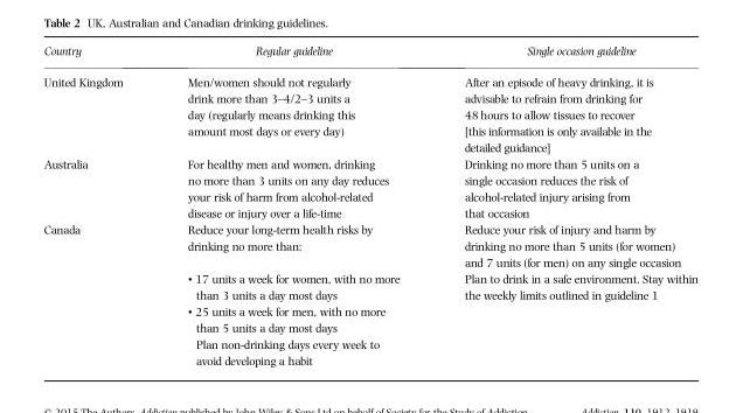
<table><thead><tr><td>Country</td><td>Regular guideline</td><td>Single occasion guideline</td></tr></thead><tbody><tr><td>United Kingdom</td><td>Men/women should not regularly drink more than 3–4/2–3 units a day (regularly means drinking this amount most days or every day)</td><td>After an episode of heavy drinking, it is advisable to refrain from drinking for 48 hours to allow tissues to recover [this information is only available in the detailed guidance]</td></tr><tr><td>Australia</td><td>For healthy men and women, drinking no more than 3 units on any day reduces your risk of harm from alcohol-related disease or injury over a life-time</td><td>Drinking no more than 5 units on a single occasion reduces the risk of alcohol-related injury arising from that occasion</td></tr><tr><td rowspan="4">Canada</td><td>Reduce your long-term health risks by drinking no more than:</td><td>Reduce your risk of injury and harm by drinking no more than 5 units (for women) and 7 units (for men) on any single occasion</td></tr><tr><td>• 17 units a week for women, with no more than 3 units a day most days</td><td>Plan to drink in a safe environment. Stay within the weekly limits outlined in guideline 1</td></tr><tr><td>• 25 units a week for men, with no more than 5 units a day most days</td><td></td></tr><tr><td>Plan non-drinking days every week to avoid developing a habit</td><td></td></tr></tbody></table>